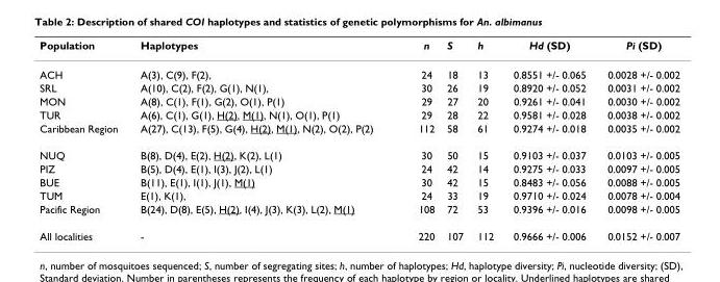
<table><thead><tr><td>Population</td><td>Haplotypes</td><td>n</td><td>S</td><td>h</td><td>Hd (SD)</td><td>Pi (SD)</td></tr></thead><tbody><tr><td>ACH</td><td>A(3), C(9), F(2),</td><td>24</td><td>18</td><td>13</td><td>0.8551 +/- 0.065</td><td>0.0028 +/- 0.002</td></tr><tr><td>SRL</td><td>A(10), C(2), F(2), G(1), N(1),</td><td>30</td><td>26</td><td>19</td><td>0.8920 +/- 0.052</td><td>0.0031 +/- 0.002</td></tr><tr><td>MON</td><td>A(8), C(1), F(1), G(2), O(1), P(1)</td><td>29</td><td>27</td><td>20</td><td>0.9261 +/- 0.041</td><td>0.0030 +/- 0.002</td></tr><tr><td>TUR</td><td>A(6), C(1), G(1), H(2), M(1), N(1), O(1), P(1)</td><td>29</td><td>28</td><td>22</td><td>0.9581 +/- 0.028</td><td>0.0038 +/- 0.002</td></tr><tr><td>Caribbean Region</td><td>A(27), C(13), F(5), G(4), H(2), M(1), N(2), O(2), P(2)</td><td>112</td><td>58</td><td>61</td><td>0.9274 +/- 0.018</td><td>0.0035 +/- 0.002</td></tr><tr><td>NUQ</td><td>B(8), D(4), E(2), H(2), K(2), L(1)</td><td>30</td><td>50</td><td>15</td><td>0.9103 +/- 0.037</td><td>0.0103 +/- 0.005</td></tr><tr><td>PIZ</td><td>B(5), D(4), E(1), I(3), J(2), L(1)</td><td>24</td><td>42</td><td>14</td><td>0.9275 +/- 0.033</td><td>0.0097 +/- 0.005</td></tr><tr><td>BUE</td><td>B(11), E(1), I(1), J(1), M(1)</td><td>30</td><td>42</td><td>15</td><td>0.8483 +/- 0.056</td><td>0.0088 +/- 0.005</td></tr><tr><td>TUM</td><td>E(1), K(1),</td><td>24</td><td>33</td><td>19</td><td>0.9710 +/- 0.024</td><td>0.0078 +/- 0.004</td></tr><tr><td>Pacific Region</td><td>B(24), D(8), E(5), H(2), I(4), J(3), K(3), L(2), M(1)</td><td>108</td><td>72</td><td>53</td><td>0.9396 +/- 0.016</td><td>0.0098 +/- 0.005</td></tr><tr><td>All localities</td><td>-</td><td>220</td><td>107</td><td>112</td><td>0.9666 +/- 0.006</td><td>0.0152 +/- 0.007</td></tr></tbody></table>